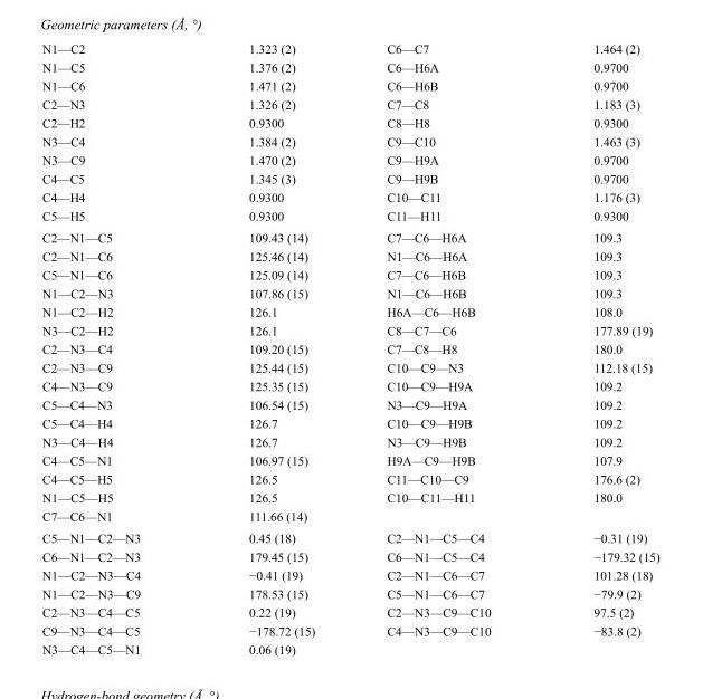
<table><tbody><tr><td>N1—C2</td><td>1.323 (2)</td><td>C6—C7</td><td>1.464 (2)</td></tr><tr><td>N1—C5</td><td>1.376 (2)</td><td>C6—H6A</td><td>0.9700</td></tr><tr><td>N1—C6</td><td>1.471 (2)</td><td>C6—H6B</td><td>0.9700</td></tr><tr><td>C2—N3</td><td>1.326 (2)</td><td>C7—C8</td><td>1.183 (3)</td></tr><tr><td>C2—H2</td><td>0.9300</td><td>C8—H8</td><td>0.9300</td></tr><tr><td>N3—C4</td><td>1.384 (2)</td><td>C9—C10</td><td>1.463 (3)</td></tr><tr><td>N3—C9</td><td>1.470 (2)</td><td>C9—H9A</td><td>0.9700</td></tr><tr><td>C4—C5</td><td>1.345 (3)</td><td>C9—H9B</td><td>0.9700</td></tr><tr><td>C4—H4</td><td>0.9300</td><td>C10—C11</td><td>1.176 (3)</td></tr><tr><td>C5—H5</td><td>0.9300</td><td>C11—H11</td><td>0.9300</td></tr><tr><td>C2—N1—C5</td><td>109.43 (14)</td><td>C7—C6—H6A</td><td>109.3</td></tr><tr><td>C2—N1—C6</td><td>125.46 (14)</td><td>N1—C6—H6A</td><td>109.3</td></tr><tr><td>C5—N1—C6</td><td>125.09 (14)</td><td>C7—C6—H6B</td><td>109.3</td></tr><tr><td>N1—C2—N3</td><td>107.86 (15)</td><td>N1—C6—H6B</td><td>109.3</td></tr><tr><td>N1—C2—H2</td><td>126.1</td><td>H6A—C6—H6B</td><td>108.0</td></tr><tr><td>N3—C2—H2</td><td>126.1</td><td>C8—C7—C6</td><td>177.89 (19)</td></tr><tr><td>C2—N3—C4</td><td>109.20 (15)</td><td>C7—C8—H8</td><td>180.0</td></tr><tr><td>C2—N3—C9</td><td>125.44 (15)</td><td>C10—C9—N3</td><td>112.18 (15)</td></tr><tr><td>C4—N3—C9</td><td>125.35 (15)</td><td>C10—C9—H9A</td><td>109.2</td></tr><tr><td>C5—C4—N3</td><td>106.54 (15)</td><td>N3—C9—H9A</td><td>109.2</td></tr><tr><td>C5—C4—H4</td><td>126.7</td><td>C10—C9—H9B</td><td>109.2</td></tr><tr><td>N3—C4—H4</td><td>126.7</td><td>N3—C9—H9B</td><td>109.2</td></tr><tr><td>C4—C5—N1</td><td>106.97 (15)</td><td>H9A—C9—H9B</td><td>107.9</td></tr><tr><td>C4—C5—H5</td><td>126.5</td><td>C11—C10—C9</td><td>176.6 (2)</td></tr><tr><td>N1—C5—H5</td><td>126.5</td><td>C10—C11—H11</td><td>180.0</td></tr><tr><td>C7—C6—N1</td><td>111.66 (14)</td><td></td><td></td></tr><tr><td>C5—N1—C2—N3</td><td>0.45 (18)</td><td>C2—N1—C5—C4</td><td>−0.31 (19)</td></tr><tr><td>C6—N1—C2—N3</td><td>179.45 (15)</td><td>C6—N1—C5—C4</td><td>−179.32 (15)</td></tr><tr><td>N1—C2—N3—C4</td><td>−0.41 (19)</td><td>C2—N1—C6—C7</td><td>101.28 (18)</td></tr><tr><td>N1—C2—N3—C9</td><td>178.53 (15)</td><td>C5—N1—C6—C7</td><td>−79.9 (2)</td></tr><tr><td>C2—N3—C4—C5</td><td>0.22 (19)</td><td>C2—N3—C9—C10</td><td>97.5 (2)</td></tr><tr><td>C9—N3—C4—C5</td><td>−178.72 (15)</td><td>C4—N3—C9—C10</td><td>−83.8 (2)</td></tr><tr><td>N3—C4—C5—N1</td><td>0.06 (19)</td><td></td><td></td></tr></tbody></table>